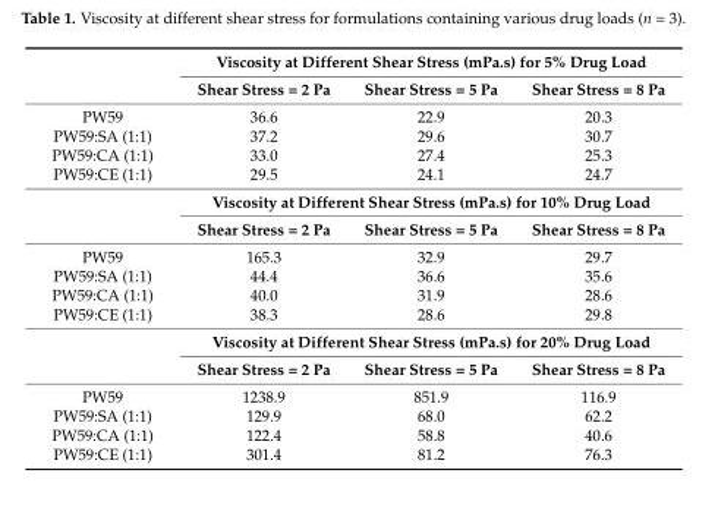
<table><thead><tr><td rowspan="2"></td><td colspan="3">Viscosity at Different Shear Stress (mPa.s) for 5% Drug Load</td></tr><tr><td>Shear Stress = 2 Pa</td><td>Shear Stress = 5 Pa</td><td>Shear Stress = 8 Pa</td></tr></thead><tbody><tr><td>PW59</td><td>36.6</td><td>22.9</td><td>20.3</td></tr><tr><td>PW59:SA (1:1)</td><td>37.2</td><td>29.6</td><td>30.7</td></tr><tr><td>PW59:CA (1:1)</td><td>33.0</td><td>27.4</td><td>25.3</td></tr><tr><td rowspan="3">PW59:CE (1:1)</td><td>29.5</td><td>24.1</td><td>24.7</td></tr><tr><td colspan="3">Viscosity at Different Shear Stress (mPa.s) for 10% Drug Load</td></tr><tr><td>Shear Stress = 2 Pa</td><td>Shear Stress = 5 Pa</td><td>Shear Stress = 8 Pa</td></tr><tr><td>PW59</td><td>165.3</td><td>32.9</td><td>29.7</td></tr><tr><td>PW59:SA (1:1)</td><td>44.4</td><td>36.6</td><td>35.6</td></tr><tr><td>PW59:CA (1:1)</td><td>40.0</td><td>31.9</td><td>28.6</td></tr><tr><td rowspan="3">PW59:CE (1:1)</td><td>38.3</td><td>28.6</td><td>29.8</td></tr><tr><td colspan="3">Viscosity at Different Shear Stress (mPa.s) for 20% Drug Load</td></tr><tr><td>Shear Stress = 2 Pa</td><td>Shear Stress = 5 Pa</td><td>Shear Stress = 8 Pa</td></tr><tr><td>PW59</td><td>1238.9</td><td>851.9</td><td>116.9</td></tr><tr><td>PW59:SA (1:1)</td><td>129.9</td><td>68.0</td><td>62.2</td></tr><tr><td>PW59:CA (1:1)</td><td>122.4</td><td>58.8</td><td>40.6</td></tr><tr><td>PW59:CE (1:1)</td><td>301.4</td><td>81.2</td><td>76.3</td></tr></tbody></table>